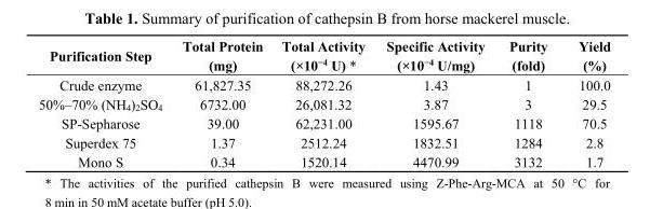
<table><thead><tr><td>Purification Step</td><td>Total Protein (mg)</td><td>Total Activity (×10<sup>−4</sup> U) *</td><td>Specific Activity (×10<sup>−4</sup> U/mg)</td><td>Purity (fold)</td><td>Yield (%)</td></tr></thead><tbody><tr><td>Crude enzyme</td><td>61,827.35</td><td>88,272.26</td><td>1.43</td><td>1</td><td>100.0</td></tr><tr><td>50%–70% (NH<sub>4</sub>)<sub>2</sub>SO<sub>4</sub></td><td>6732.00</td><td>26,081.32</td><td>3.87</td><td>3</td><td>29.5</td></tr><tr><td>SP-Sepharose</td><td>39.00</td><td>62,231.00</td><td>1595.67</td><td>1118</td><td>70.5</td></tr><tr><td>Superdex 75</td><td>1.37</td><td>2512.24</td><td>1832.51</td><td>1284</td><td>2.8</td></tr><tr><td>Mono S</td><td>0.34</td><td>1520.14</td><td>4470.99</td><td>3132</td><td>1.7</td></tr></tbody></table>